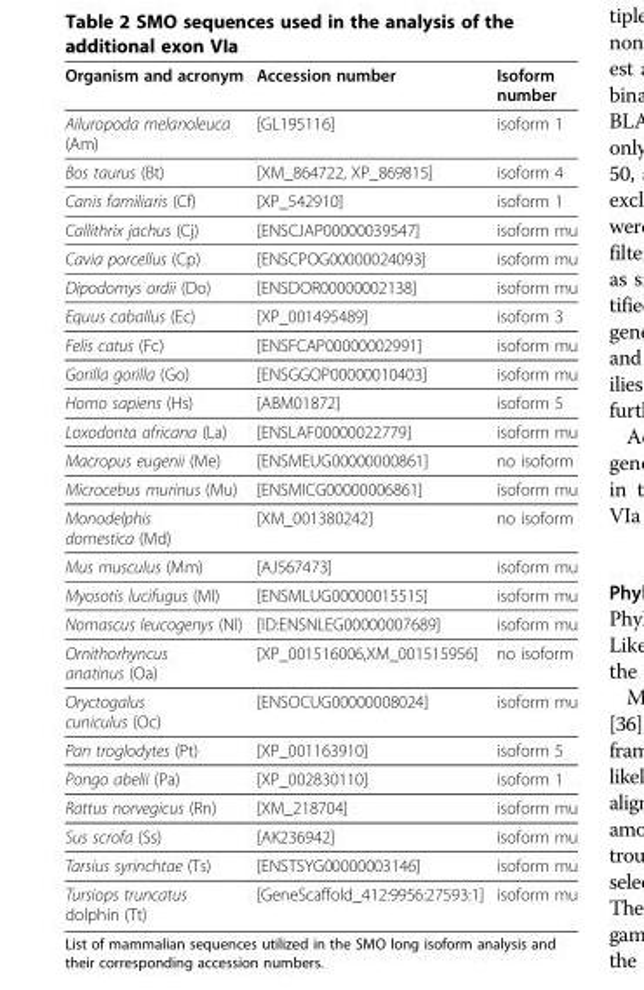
<table><thead><tr><td>Organism and acronym</td><td>Accession number</td><td>Isoform number</td></tr></thead><tbody><tr><td>Ailuropoda melanoleuca (Am)</td><td>[GL195116]</td><td>isoform 1</td></tr><tr><td>Bos taurus (Bt)</td><td>[XM_864722, XP_869815]</td><td>isoform 4</td></tr><tr><td>Canis familiaris (Cf)</td><td>[XP_542910]</td><td>isoform 1</td></tr><tr><td>Callithrix jachus (Cj)</td><td>[ENSCJAP00000039547]</td><td>isoform mu</td></tr><tr><td>Cavia porcellus (Cp)</td><td>[ENSCPOG00000024093]</td><td>isoform mu</td></tr><tr><td>Dipodomys ordii (Do)</td><td>[ENSDOR00000002138]</td><td>isoform mu</td></tr><tr><td>Equus caballus (Ec)</td><td>[XP_001495489]</td><td>isoform 3</td></tr><tr><td>Felis catus (Fc)</td><td>[ENSFCAP00000002991]</td><td>isoform mu</td></tr><tr><td>Gorilla gorilla (Go)</td><td>[ENSGGOP00000010403]</td><td>isoform mu</td></tr><tr><td>Homo sapiens (Hs)</td><td>[ABM01872]</td><td>isoform 5</td></tr><tr><td>Loxodonta africana (La)</td><td>[ENSLAF00000022779]</td><td>isoform mu</td></tr><tr><td>Macropus eugenii (Me)</td><td>[ENSMEUG00000000861]</td><td>no isoform</td></tr><tr><td>Microcebus murinus (Mu)</td><td>[ENSMICG00000006861]</td><td>isoform mu</td></tr><tr><td>Monodelphis domestica (Md)</td><td>[XM_001380242]</td><td>no isoform</td></tr><tr><td>Mus musculus (Mm)</td><td>[AJ567473]</td><td>isoform mu</td></tr><tr><td>Myosotis lucifugus (Ml)</td><td>[ENSMLUG00000015515]</td><td>isoform mu</td></tr><tr><td>Nomascus leucogenys (Nl)</td><td>[ID:ENSNLEG00000007689]</td><td>isoform mu</td></tr><tr><td>Ornithorhyncus anatinus (Oa)</td><td>[XP_001516006,XM_001515956]</td><td>no isoform</td></tr><tr><td>Oryctogalus cuniculus (Oc)</td><td>[ENSOCUG00000008024]</td><td>isoform mu</td></tr><tr><td>Pan troglodytes (Pt)</td><td>[XP_001163910]</td><td>isoform 5</td></tr><tr><td>Pongo abelii (Pa)</td><td>[XP_002830110]</td><td>isoform 1</td></tr><tr><td>Rattus norvegicus (Rn)</td><td>[XM_218704]</td><td>isoform mu</td></tr><tr><td>Sus scrofa (Ss)</td><td>[AK236942]</td><td>isoform mu</td></tr><tr><td>Tarsius syrinchtae (Ts)</td><td>[ENSTSYG00000003146]</td><td>isoform mu</td></tr><tr><td>Tursiops truncatus dolphin (Tt)</td><td>[GeneScaffold_412:9956:27593:1]</td><td>isoform mu</td></tr></tbody></table>